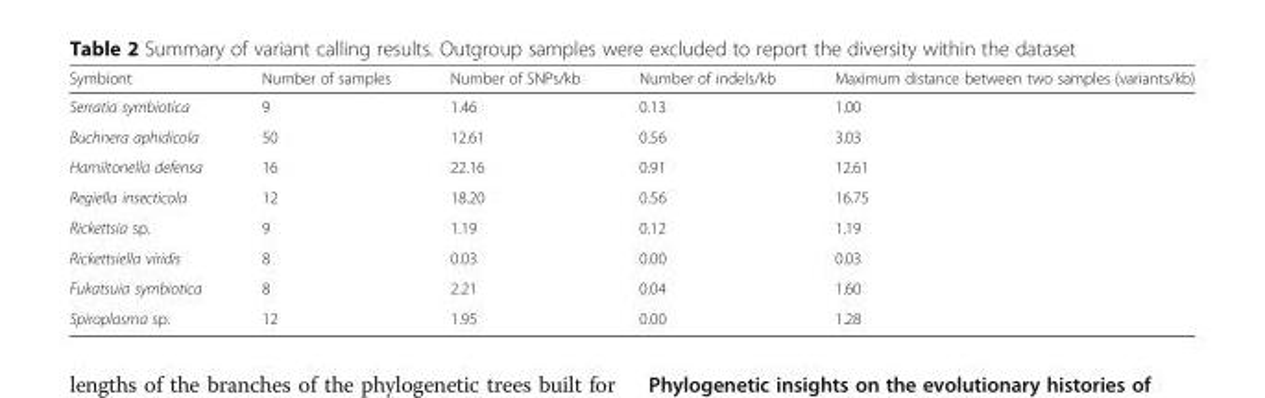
<table><thead><tr><td>Symbiont</td><td>Number of samples</td><td>Number of SNPs/kb</td><td>Number of indels/kb</td><td>Maximum distance between two samples (variants/kb)</td></tr></thead><tbody><tr><td>Serratia symbiotica</td><td>9</td><td>1.46</td><td>0.13</td><td>1.00</td></tr><tr><td>Buchnera aphidicola</td><td>50</td><td>12.61</td><td>0.56</td><td>3.03</td></tr><tr><td>Hamiltonella defensa</td><td>16</td><td>22.16</td><td>0.91</td><td>12.61</td></tr><tr><td>Regiella insecticola</td><td>12</td><td>18.20</td><td>0.56</td><td>16.75</td></tr><tr><td>Rickettsia sp.</td><td>9</td><td>1.19</td><td>0.12</td><td>1.19</td></tr><tr><td>Rickettsiella viridis</td><td>8</td><td>0.03</td><td>0.00</td><td>0.03</td></tr><tr><td>Fukatsuia symbiotica</td><td>8</td><td>2.21</td><td>0.04</td><td>1.60</td></tr><tr><td>Spiroplasma sp.</td><td>12</td><td>1.95</td><td>0.00</td><td>1.28</td></tr></tbody></table>